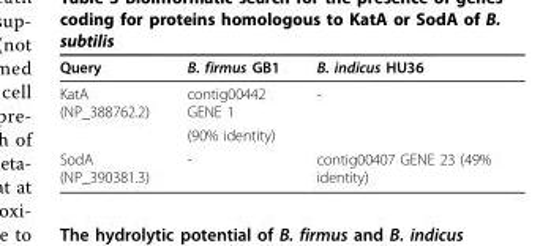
<table><thead><tr><td>Query</td><td>B. firmus GB1</td><td>B. indicus HU36</td></tr></thead><tbody><tr><td rowspan="2">KatA (NP_388762.2)</td><td>contig00442 GENE 1</td><td>-</td></tr><tr><td>(90% identity)</td><td></td></tr><tr><td>SodA (NP_390381.3)</td><td>-</td><td>contig00407 GENE 23 (49% identity)</td></tr></tbody></table>